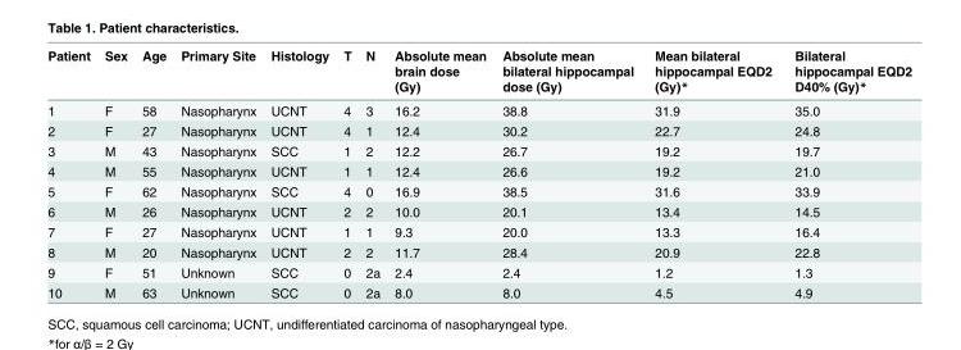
<table><thead><tr><td>Patient</td><td>Sex</td><td>Age</td><td>Primary Site</td><td>Histology</td><td>T</td><td>N</td><td>Absolute mean brain dose (Gy)</td><td>Absolute mean bilateral hippocampal dose (Gy)</td><td>Mean bilateral hippocampal EQD2 (Gy)*</td><td>Bilateral hippocampal EQD2 D40% (Gy)*</td></tr></thead><tbody><tr><td>1</td><td>F</td><td>58</td><td>Nasopharynx</td><td>UCNT</td><td>4</td><td>3</td><td>16.2</td><td>38.8</td><td>31.9</td><td>35.0</td></tr><tr><td>2</td><td>F</td><td>27</td><td>Nasopharynx</td><td>UCNT</td><td>4</td><td>1</td><td>12.4</td><td>30.2</td><td>22.7</td><td>24.8</td></tr><tr><td>3</td><td>M</td><td>43</td><td>Nasopharynx</td><td>SCC</td><td>1</td><td>2</td><td>12.2</td><td>26.7</td><td>19.2</td><td>19.7</td></tr><tr><td>4</td><td>M</td><td>55</td><td>Nasopharynx</td><td>UCNT</td><td>1</td><td>1</td><td>12.4</td><td>26.6</td><td>19.2</td><td>21.0</td></tr><tr><td>5</td><td>F</td><td>62</td><td>Nasopharynx</td><td>SCC</td><td>4</td><td>0</td><td>16.9</td><td>38.5</td><td>31.6</td><td>33.9</td></tr><tr><td>6</td><td>M</td><td>26</td><td>Nasopharynx</td><td>UCNT</td><td>2</td><td>2</td><td>10.0</td><td>20.1</td><td>13.4</td><td>14.5</td></tr><tr><td>7</td><td>F</td><td>27</td><td>Nasopharynx</td><td>UCNT</td><td>1</td><td>1</td><td>9.3</td><td>20.0</td><td>13.3</td><td>16.4</td></tr><tr><td>8</td><td>M</td><td>20</td><td>Nasopharynx</td><td>UCNT</td><td>2</td><td>2</td><td>11.7</td><td>28.4</td><td>20.9</td><td>22.8</td></tr><tr><td>9</td><td>F</td><td>51</td><td>Unknown</td><td>SCC</td><td>0</td><td>2a</td><td>2.4</td><td>2.4</td><td>1.2</td><td>1.3</td></tr><tr><td>10</td><td>M</td><td>63</td><td>Unknown</td><td>SCC</td><td>0</td><td>2a</td><td>8.0</td><td>8.0</td><td>4.5</td><td>4.9</td></tr></tbody></table>